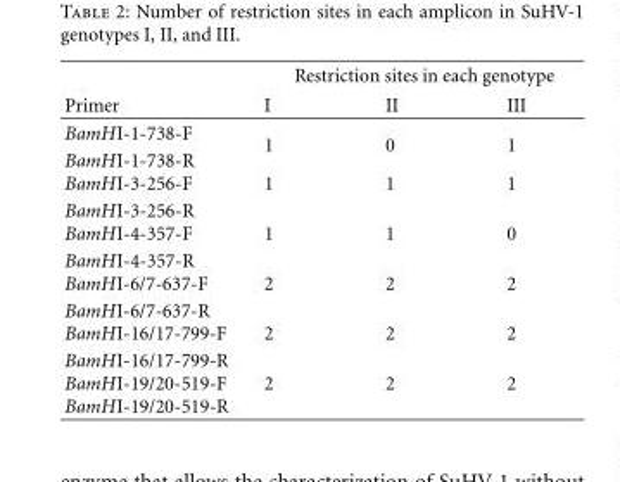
<table><thead><tr><td rowspan="2">Primer</td><td colspan="3">Restriction sites in each genotype</td></tr><tr><td>I</td><td>II</td><td>III</td></tr></thead><tbody><tr><td>BamHI-1-738-F</td><td rowspan="2">1</td><td rowspan="2">0</td><td rowspan="2">1</td></tr><tr><td>BamHI-1-738-R</td></tr><tr><td>BamHI-3-256-F</td><td rowspan="2">1</td><td rowspan="2">1</td><td rowspan="2">1</td></tr><tr><td>BamHI-3-256-R</td></tr><tr><td>BamHI-4-357-F</td><td rowspan="2">1</td><td rowspan="2">1</td><td rowspan="2">0</td></tr><tr><td>BamHI-4-357-R</td></tr><tr><td>BamHI-6/7-637-F</td><td rowspan="2">2</td><td rowspan="2">2</td><td rowspan="2">2</td></tr><tr><td>BamHI-6/7-637-R</td></tr><tr><td>BamHI-16/17-799-F</td><td rowspan="2">2</td><td rowspan="2">2</td><td rowspan="2">2</td></tr><tr><td>BamHI-16/17-799-R</td></tr><tr><td>BamHI-19/20-519-F BamHI-19/20-519-R</td><td>2</td><td>2</td><td>2</td></tr></tbody></table>